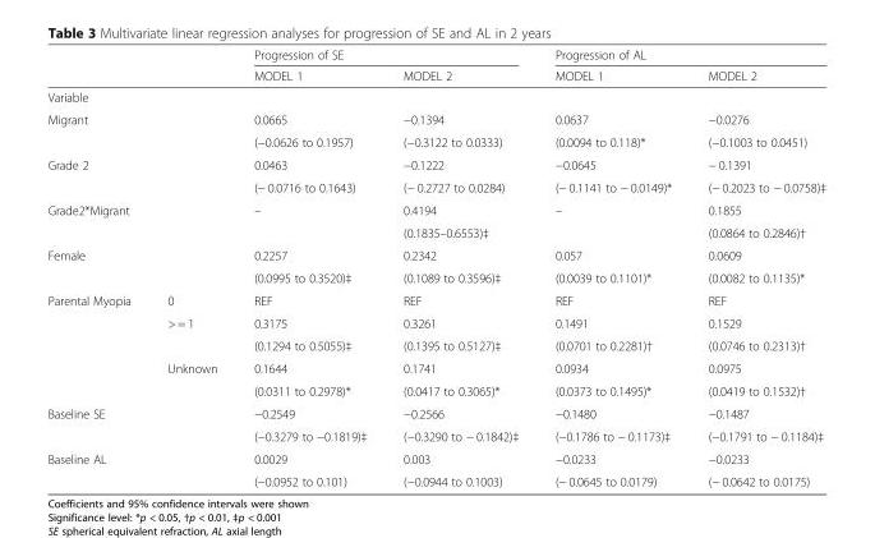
<table><thead><tr><td rowspan="2"></td><td rowspan="2"></td><td colspan="2">Progression of SE</td><td colspan="2">Progression of AL</td></tr><tr><td>MODEL 1</td><td>MODEL 2</td><td>MODEL 1</td><td>MODEL 2</td></tr></thead><tbody><tr><td colspan="6">Variable</td></tr><tr><td rowspan="2">Migrant</td><td></td><td>0.0665</td><td>−0.1394</td><td>0.0637</td><td>−0.0276</td></tr><tr><td></td><td>(−0.0626 to 0.1957)</td><td>(−0.3122 to 0.0333)</td><td>(0.0094 to 0.118)*</td><td>(−0.1003 to 0.0451)</td></tr><tr><td rowspan="2">Grade 2</td><td></td><td>0.0463</td><td>−0.1222</td><td>−0.0645</td><td>− 0.1391</td></tr><tr><td></td><td>(− 0.0716 to 0.1643)</td><td>(− 0.2727 to 0.0284)</td><td>(− 0.1141 to − 0.0149)*</td><td>(− 0.2023 to − 0.0758)‡</td></tr><tr><td rowspan="2">Grade2*Migrant</td><td></td><td>–</td><td>0.4194</td><td>–</td><td>0.1855</td></tr><tr><td></td><td></td><td>(0.1835–0.6553)‡</td><td></td><td>(0.0864 to 0.2846)†</td></tr><tr><td rowspan="2">Female</td><td></td><td>0.2257</td><td>0.2342</td><td>0.057</td><td>0.0609</td></tr><tr><td></td><td>(0.0995 to 0.3520)‡</td><td>(0.1089 to 0.3596)‡</td><td>(0.0039 to 0.1101)*</td><td>(0.0082 to 0.1135)*</td></tr><tr><td rowspan="5">Parental Myopia</td><td>0</td><td>REF</td><td>REF</td><td>REF</td><td>REF</td></tr><tr><td>&gt; = 1</td><td>0.3175</td><td>0.3261</td><td>0.1491</td><td>0.1529</td></tr><tr><td></td><td>(0.1294 to 0.5055)‡</td><td>(0.1395 to 0.5127)‡</td><td>(0.0701 to 0.2281)†</td><td>(0.0746 to 0.2313)†</td></tr><tr><td>Unknown</td><td>0.1644</td><td>0.1741</td><td>0.0934</td><td>0.0975</td></tr><tr><td></td><td>(0.0311 to 0.2978)*</td><td>(0.0417 to 0.3065)*</td><td>(0.0373 to 0.1495)*</td><td>(0.0419 to 0.1532)†</td></tr><tr><td rowspan="2">Baseline SE</td><td></td><td>−0.2549</td><td>−0.2566</td><td>−0.1480</td><td>−0.1487</td></tr><tr><td></td><td>(−0.3279 to −0.1819)‡</td><td>(−0.3290 to − 0.1842)‡</td><td>(−0.1786 to − 0.1173)‡</td><td>(−0.1791 to − 0.1184)‡</td></tr><tr><td rowspan="2">Baseline AL</td><td></td><td>0.0029</td><td>0.003</td><td>−0.0233</td><td>−0.0233</td></tr><tr><td></td><td>(−0.0952 to 0.101)</td><td>(−0.0944 to 0.1003)</td><td>(− 0.0645 to 0.0179)</td><td>(− 0.0642 to 0.0175)</td></tr></tbody></table>